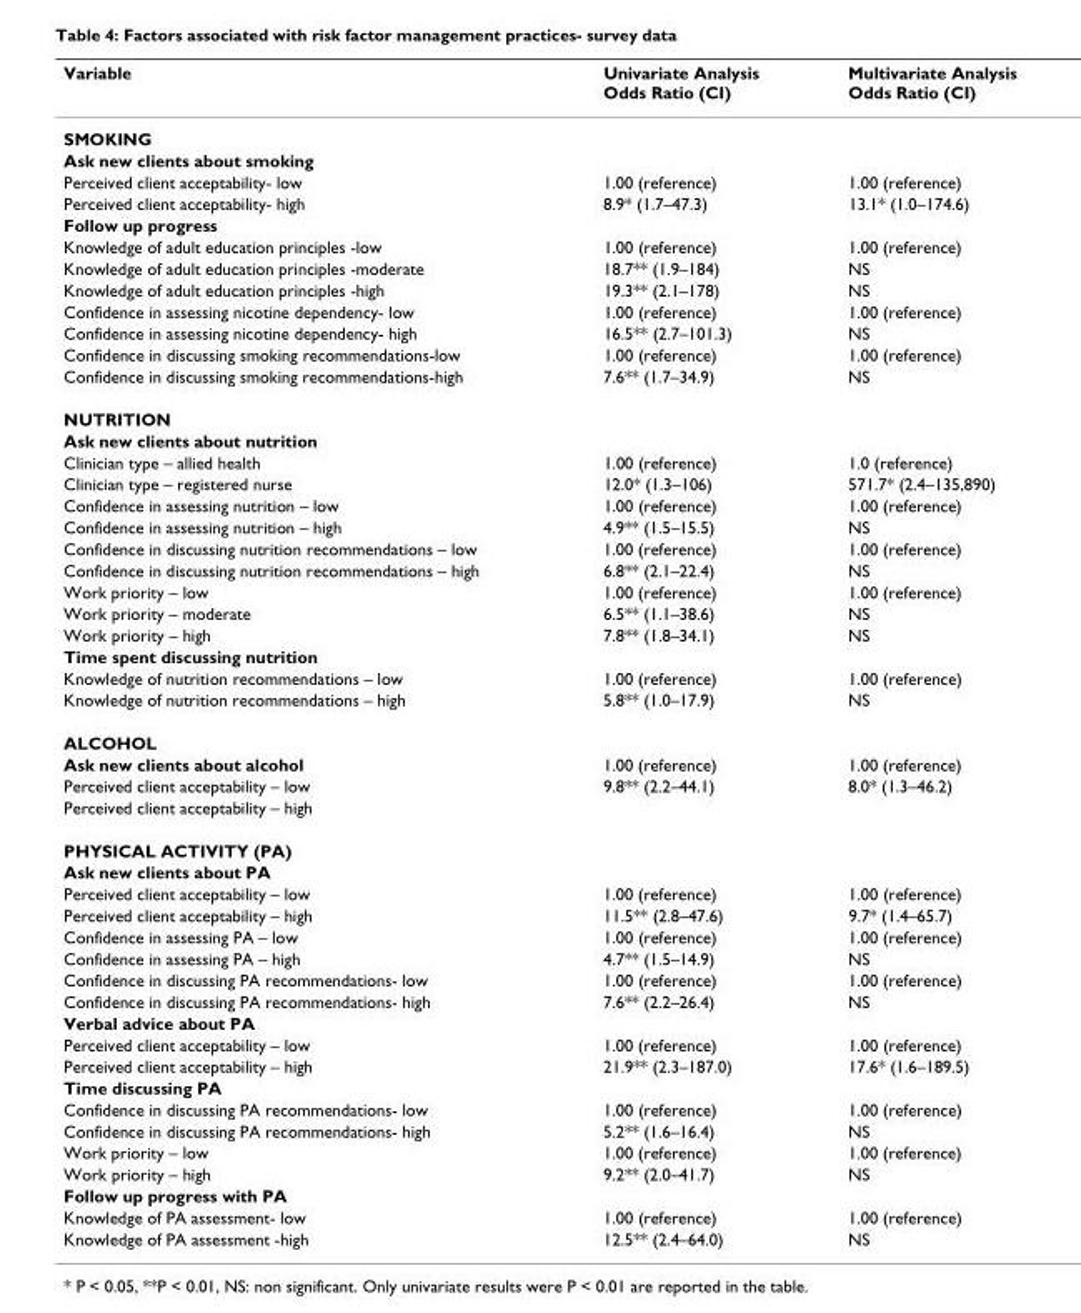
<table><thead><tr><td>Variable</td><td>Univariate Analysis Odds Ratio (CI)</td><td>Multivariate Analysis Odds Ratio (CI)</td></tr></thead><tbody><tr><td colspan="3">SMOKING</td></tr><tr><td colspan="3">Ask new clients about smoking</td></tr><tr><td>Perceived client acceptability- low</td><td>1.00 (reference)</td><td>1.00 (reference)</td></tr><tr><td>Perceived client acceptability- high</td><td>8.9* (1.7–47.3)</td><td>13.1* (1.0–174.6)</td></tr><tr><td colspan="3">Follow up progress</td></tr><tr><td>Knowledge of adult education principles -low</td><td>1.00 (reference)</td><td>1.00 (reference)</td></tr><tr><td>Knowledge of adult education principles -moderate</td><td>18.7** (1.9–184)</td><td>NS</td></tr><tr><td>Knowledge of adult education principles -high</td><td>19.3** (2.1–178)</td><td>NS</td></tr><tr><td>Confidence in assessing nicotine dependency- low</td><td>1.00 (reference)</td><td>1.00 (reference)</td></tr><tr><td>Confidence in assessing nicotine dependency- high</td><td>16.5** (2.7–101.3)</td><td>NS</td></tr><tr><td>Confidence in discussing smoking recommendations-low</td><td>1.00 (reference)</td><td>1.00 (reference)</td></tr><tr><td>Confidence in discussing smoking recommendations-high</td><td>7.6** (1.7–34.9)</td><td>NS</td></tr><tr><td colspan="3">NUTRITION</td></tr><tr><td colspan="3">Ask new clients about nutrition</td></tr><tr><td>Clinician type – allied health</td><td>1.00 (reference)</td><td>1.0 (reference)</td></tr><tr><td>Clinician type – registered nurse</td><td>12.0* (1.3–106)</td><td>571.7* (2.4–135,890)</td></tr><tr><td>Confidence in assessing nutrition – low</td><td>1.00 (reference)</td><td>1.00 (reference)</td></tr><tr><td>Confidence in assessing nutrition – high</td><td>4.9** (1.5–15.5)</td><td>NS</td></tr><tr><td>Confidence in discussing nutrition recommendations – low</td><td>1.00 (reference)</td><td>1.00 (reference)</td></tr><tr><td>Confidence in discussing nutrition recommendations – high</td><td>6.8** (2.1–22.4)</td><td>NS</td></tr><tr><td>Work priority – low</td><td>1.00 (reference)</td><td>1.00 (reference)</td></tr><tr><td>Work priority – moderate</td><td>6.5** (1.1–38.6)</td><td>NS</td></tr><tr><td>Work priority – high</td><td>7.8** (1.8–34.1)</td><td>NS</td></tr><tr><td colspan="3">Time spent discussing nutrition</td></tr><tr><td>Knowledge of nutrition recommendations – low</td><td>1.00 (reference)</td><td>1.00 (reference)</td></tr><tr><td>Knowledge of nutrition recommendations – high</td><td>5.8** (1.0–17.9)</td><td>NS</td></tr><tr><td colspan="3">ALCOHOL</td></tr><tr><td>Ask new clients about alcohol</td><td>1.00 (reference)</td><td>1.00 (reference)</td></tr><tr><td>Perceived client acceptability – low</td><td>9.8** (2.2–44.1)</td><td>8.0* (1.3–46.2)</td></tr><tr><td colspan="3">Perceived client acceptability – high</td></tr><tr><td colspan="3">PHYSICAL ACTIVITY (PA)</td></tr><tr><td colspan="3">Ask new clients about PA</td></tr><tr><td>Perceived client acceptability – low</td><td>1.00 (reference)</td><td>1.00 (reference)</td></tr><tr><td>Perceived client acceptability – high</td><td>11.5** (2.8–47.6)</td><td>9.7* (1.4–65.7)</td></tr><tr><td>Confidence in assessing PA – low</td><td>1.00 (reference)</td><td>1.00 (reference)</td></tr><tr><td>Confidence in assessing PA – high</td><td>4.7** (1.5–14.9)</td><td>NS</td></tr><tr><td>Confidence in discussing PA recommendations- low</td><td>1.00 (reference)</td><td>1.00 (reference)</td></tr><tr><td>Confidence in discussing PA recommendations- high</td><td>7.6** (2.2–26.4)</td><td>NS</td></tr><tr><td colspan="3">Verbal advice about PA</td></tr><tr><td>Perceived client acceptability – low</td><td>1.00 (reference)</td><td>1.00 (reference)</td></tr><tr><td>Perceived client acceptability – high</td><td>21.9** (2.3–187.0)</td><td>17.6* (1.6–189.5)</td></tr><tr><td colspan="3">Time discussing PA</td></tr><tr><td>Confidence in discussing PA recommendations- low</td><td>1.00 (reference)</td><td>1.00 (reference)</td></tr><tr><td>Confidence in discussing PA recommendations- high</td><td>5.2** (1.6–16.4)</td><td>NS</td></tr><tr><td>Work priority – low</td><td>1.00 (reference)</td><td>1.00 (reference)</td></tr><tr><td>Work priority – high</td><td>9.2** (2.0–41.7)</td><td>NS</td></tr><tr><td colspan="3">Follow up progress with PA</td></tr><tr><td>Knowledge of PA assessment- low</td><td>1.00 (reference)</td><td>1.00 (reference)</td></tr><tr><td>Knowledge of PA assessment -high</td><td>12.5** (2.4–64.0)</td><td>NS</td></tr></tbody></table>